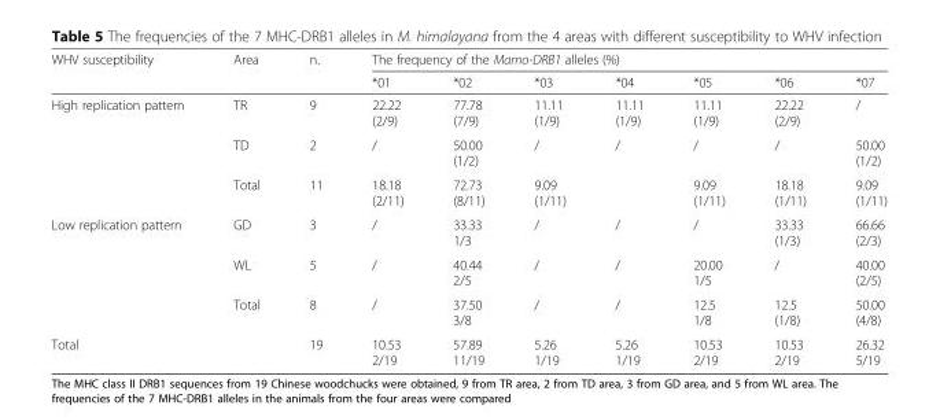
<table><thead><tr><td rowspan="2">WHV susceptibility</td><td rowspan="2">Area</td><td rowspan="2">n.</td><td colspan="7">The frequency of the Mamo-DRB1 alleles (%)</td></tr><tr><td>*01</td><td>*02</td><td>*03</td><td>*04</td><td>*05</td><td>*06</td><td>*07</td></tr></thead><tbody><tr><td rowspan="3">High replication pattern</td><td>TR</td><td>9</td><td>22.22 (2/9)</td><td>77.78 (7/9)</td><td>11.11 (1/9)</td><td>11.11 (1/9)</td><td>11.11 (1/9)</td><td>22.22 (2/9)</td><td>/</td></tr><tr><td>TD</td><td>2</td><td>/</td><td>50.00 (1/2)</td><td>/</td><td>/</td><td>/</td><td>/</td><td>50.00 (1/2)</td></tr><tr><td>Total</td><td>11</td><td>18.18 (2/11)</td><td>72.73 (8/11)</td><td>9.09 (1/11)</td><td></td><td>9.09 (1/11)</td><td>18.18 (1/11)</td><td>9.09 (1/11)</td></tr><tr><td rowspan="3">Low replication pattern</td><td>GD</td><td>3</td><td>/</td><td>33.33 1/3</td><td>/</td><td>/</td><td>/</td><td>33.33 (1/3)</td><td>66.66 (2/3)</td></tr><tr><td>WL</td><td>5</td><td>/</td><td>40.44 2/5</td><td>/</td><td>/</td><td>20.00 1/5</td><td>/</td><td>40.00 (2/5)</td></tr><tr><td>Total</td><td>8</td><td>/</td><td>37.50 3/8</td><td>/</td><td>/</td><td>12.5 1/8</td><td>12.5 (1/8)</td><td>50.00 (4/8)</td></tr><tr><td colspan="2">Total</td><td>19</td><td>10.53 2/19</td><td>57.89 11/19</td><td>5.26 1/19</td><td>5.26 1/19</td><td>10.53 2/19</td><td>10.53 2/19</td><td>26.32 5/19</td></tr></tbody></table>